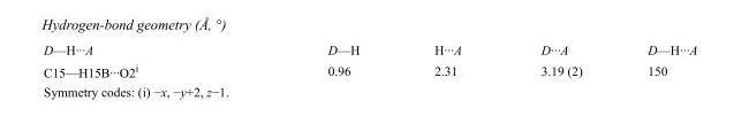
<table><tbody><tr><td>D—H···A</td><td>D—H</td><td>H···A</td><td>D···A</td><td>D—H···A</td></tr><tr><td>C15—H15B···O2<sup>i</sup></td><td>0.96</td><td>2.31</td><td>3.19 (2)</td><td>150</td></tr></tbody></table>